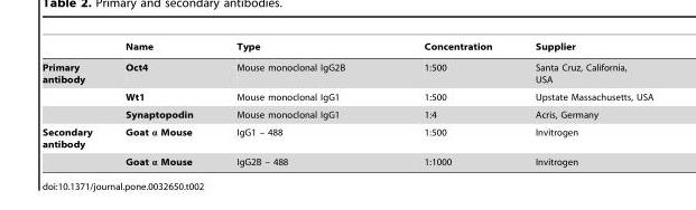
<table><thead><tr><td></td><td>Name</td><td>Type</td><td>Concentration</td><td>Supplier</td></tr></thead><tbody><tr><td rowspan="3">Primary antibody</td><td>Oct4</td><td>Mouse monoclonal IgG2B</td><td>1:500</td><td>Santa Cruz, California, USA</td></tr><tr><td>Wt1</td><td>Mouse monoclonal IgG1</td><td>1:500</td><td>Upstate Massachusetts, USA</td></tr><tr><td>Synaptopodin</td><td>Mouse monoclonal IgG1</td><td>1:4</td><td>Acris, Germany</td></tr><tr><td rowspan="2">Secondary antibody</td><td>Goat α Mouse</td><td>IgG1 – 488</td><td>1:500</td><td>Invitrogen</td></tr><tr><td>Goat α Mouse</td><td>IgG2B – 488</td><td>1:1000</td><td>Invitrogen</td></tr></tbody></table>